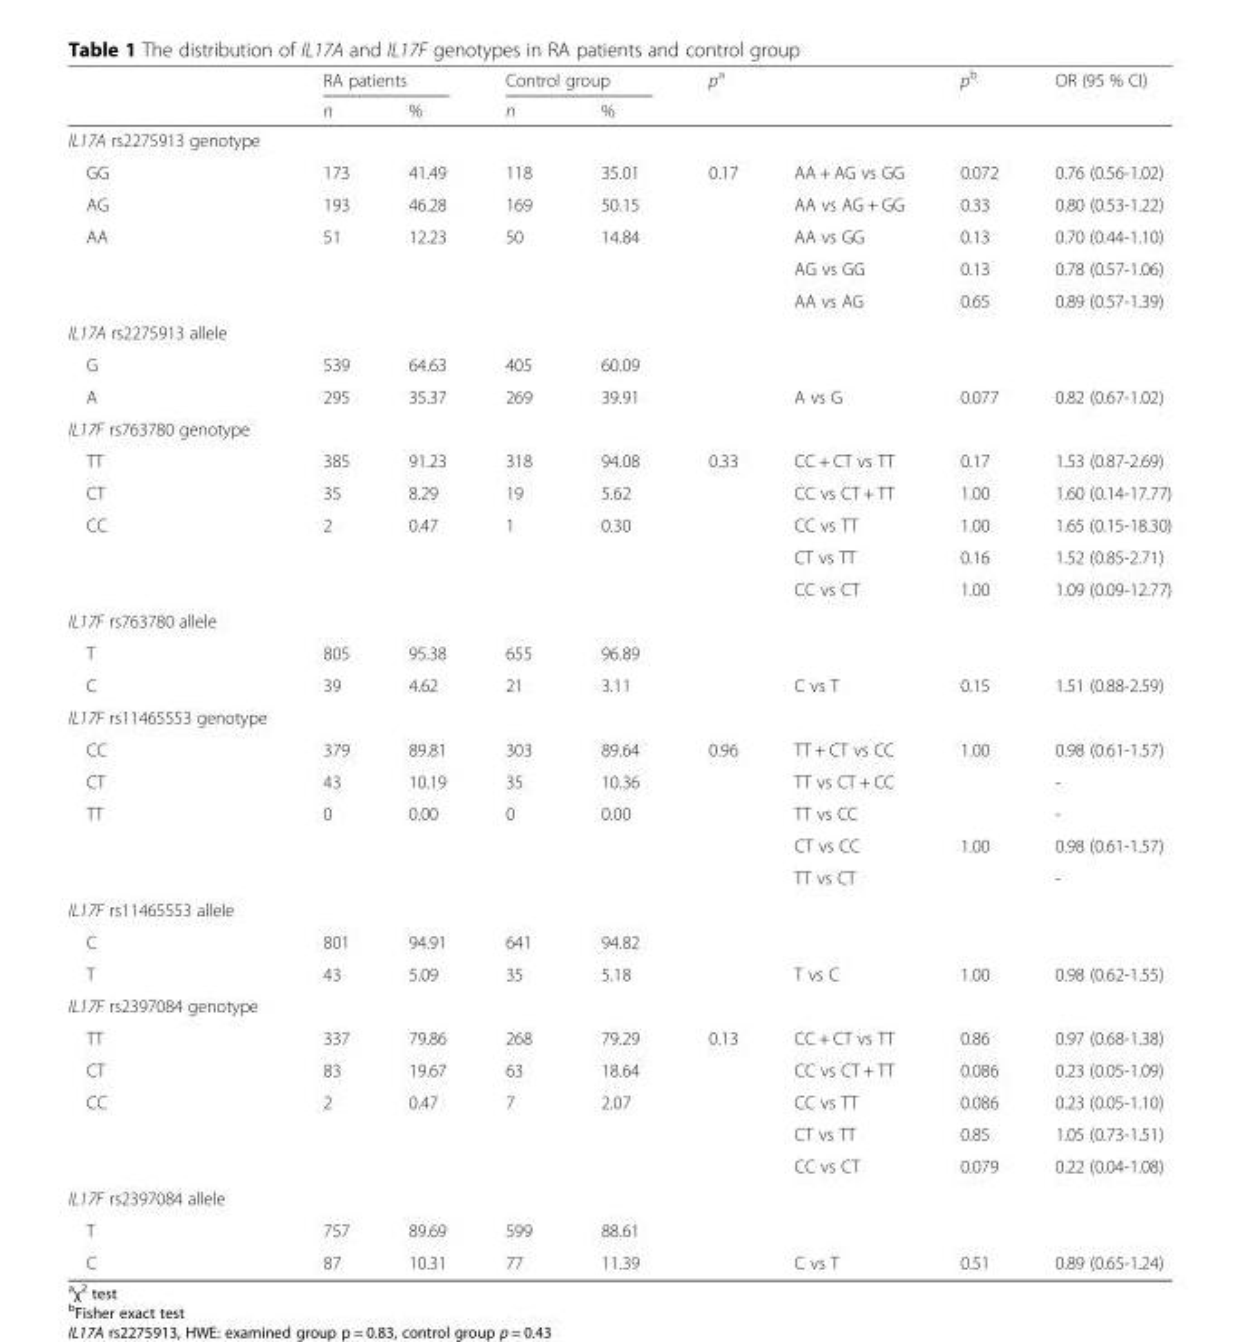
<table><thead><tr><td rowspan="2"></td><td colspan="2">RA patients</td><td colspan="2">Control group</td><td rowspan="2">p<sup>a</sup></td><td rowspan="2"></td><td rowspan="2">p<sup>b</sup></td><td rowspan="2">OR (95 % CI)</td></tr><tr><td>n</td><td>%</td><td>n</td><td>%</td></tr></thead><tbody><tr><td colspan="9">IL17A rs2275913 genotype</td></tr><tr><td>GG</td><td>173</td><td>41.49</td><td>118</td><td>35.01</td><td rowspan="3">0.17</td><td>AA + AG vs GG</td><td>0.072</td><td>0.76 (0.56-1.02)</td></tr><tr><td>AG</td><td>193</td><td>46.28</td><td>169</td><td>50.15</td><td>AA vs AG + GG</td><td>0.33</td><td>0.80 (0.53-1.22)</td></tr><tr><td rowspan="3">AA</td><td>51</td><td>12.23</td><td>50</td><td>14.84</td><td>AA vs GG</td><td>0.13</td><td>0.70 (0.44-1.10)</td></tr><tr><td></td><td></td><td></td><td></td><td></td><td>AG vs GG</td><td>0.13</td><td>0.78 (0.57-1.06)</td></tr><tr><td></td><td></td><td></td><td></td><td></td><td>AA vs AG</td><td>0.65</td><td>0.89 (0.57-1.39)</td></tr><tr><td colspan="9">IL17A rs2275913 allele</td></tr><tr><td>G</td><td>539</td><td>64.63</td><td>405</td><td>60.09</td><td></td><td></td><td></td><td></td></tr><tr><td>A</td><td>295</td><td>35.37</td><td>269</td><td>39.91</td><td></td><td>A vs G</td><td>0.077</td><td>0.82 (0.67-1.02)</td></tr><tr><td colspan="9">IL17F rs763780 genotype</td></tr><tr><td>TT</td><td>385</td><td>91.23</td><td>318</td><td>94.08</td><td rowspan="3">0.33</td><td>CC + CT vs TT</td><td>0.17</td><td>1.53 (0.87-2.69)</td></tr><tr><td>CT</td><td>35</td><td>8.29</td><td>19</td><td>5.62</td><td>CC vs CT + TT</td><td>1.00</td><td>1.60 (0.14-17.77)</td></tr><tr><td rowspan="3">CC</td><td>2</td><td>0.47</td><td>1</td><td>0.30</td><td>CC vs TT</td><td>1.00</td><td>1.65 (0.15-18.30)</td></tr><tr><td></td><td></td><td></td><td></td><td></td><td>CT vs TT</td><td>0.16</td><td>1.52 (0.85-2.71)</td></tr><tr><td></td><td></td><td></td><td></td><td></td><td>CC vs CT</td><td>1.00</td><td>1.09 (0.09-12.77)</td></tr><tr><td colspan="9">IL17F rs763780 allele</td></tr><tr><td>T</td><td>805</td><td>95.38</td><td>655</td><td>96.89</td><td></td><td></td><td></td><td></td></tr><tr><td>C</td><td>39</td><td>4.62</td><td>21</td><td>3.11</td><td></td><td>C vs T</td><td>0.15</td><td>1.51 (0.88-2.59)</td></tr><tr><td colspan="9">IL17F rs11465553 genotype</td></tr><tr><td>CC</td><td>379</td><td>89.81</td><td>303</td><td>89.64</td><td rowspan="3">0.96</td><td>TT + CT vs CC</td><td>1.00</td><td>0.98 (0.61-1.57)</td></tr><tr><td>CT</td><td>43</td><td>10.19</td><td>35</td><td>10.36</td><td>TT vs CT + CC</td><td></td><td>-</td></tr><tr><td rowspan="3">TT</td><td>0</td><td>0.00</td><td>0</td><td>0.00</td><td>TT vs CC</td><td></td><td>-</td></tr><tr><td></td><td></td><td></td><td></td><td></td><td>CT vs CC</td><td>1.00</td><td>0.98 (0.61-1.57)</td></tr><tr><td></td><td></td><td></td><td></td><td></td><td>TT vs CT</td><td></td><td>-</td></tr><tr><td colspan="9">IL17F rs11465553 allele</td></tr><tr><td>C</td><td>801</td><td>94.91</td><td>641</td><td>94.82</td><td></td><td></td><td></td><td></td></tr><tr><td>T</td><td>43</td><td>5.09</td><td>35</td><td>5.18</td><td></td><td>T vs C</td><td>1.00</td><td>0.98 (0.62-1.55)</td></tr><tr><td colspan="9">IL17F rs2397084 genotype</td></tr><tr><td>TT</td><td>337</td><td>79.86</td><td>268</td><td>79.29</td><td rowspan="3">0.13</td><td>CC + CT vs TT</td><td>0.86</td><td>0.97 (0.68-1.38)</td></tr><tr><td>CT</td><td>83</td><td>19.67</td><td>63</td><td>18.64</td><td>CC vs CT + TT</td><td>0.086</td><td>0.23 (0.05-1.09)</td></tr><tr><td rowspan="3">CC</td><td>2</td><td>0.47</td><td>7</td><td>2.07</td><td>CC vs TT</td><td>0.086</td><td>0.23 (0.05-1.10)</td></tr><tr><td></td><td></td><td></td><td></td><td></td><td>CT vs TT</td><td>0.85</td><td>1.05 (0.73-1.51)</td></tr><tr><td></td><td></td><td></td><td></td><td></td><td>CC vs CT</td><td>0.079</td><td>0.22 (0.04-1.08)</td></tr><tr><td colspan="9">IL17F rs2397084 allele</td></tr><tr><td>T</td><td>757</td><td>89.69</td><td>599</td><td>88.61</td><td></td><td></td><td></td><td></td></tr><tr><td>C</td><td>87</td><td>10.31</td><td>77</td><td>11.39</td><td></td><td>C vs T</td><td>0.51</td><td>0.89 (0.65-1.24)</td></tr></tbody></table>